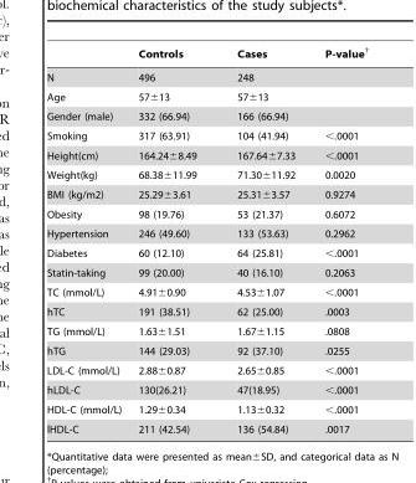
<table><thead><tr><td></td><td>Controls</td><td>Cases</td><td>P-value†</td></tr></thead><tbody><tr><td>N</td><td>496</td><td>248</td><td></td></tr><tr><td>Age</td><td>57±13</td><td>57±13</td><td></td></tr><tr><td>Gender (male)</td><td>332 (66.94)</td><td>166 (66.94)</td><td></td></tr><tr><td>Smoking</td><td>317 (63.91)</td><td>104 (41.94)</td><td>&lt;.0001</td></tr><tr><td>Height(cm)</td><td>164.24±8.49</td><td>167.64±7.33</td><td>&lt;.0001</td></tr><tr><td>Weight(kg)</td><td>68.38±11.99</td><td>71.30±11.92</td><td>0.0020</td></tr><tr><td>BMI (kg/m2)</td><td>25.29±3.61</td><td>25.31±3.57</td><td>0.9274</td></tr><tr><td>Obesity</td><td>98 (19.76)</td><td>53 (21.37)</td><td>0.6072</td></tr><tr><td>Hypertension</td><td>246 (49.60)</td><td>133 (53.63)</td><td>0.2962</td></tr><tr><td>Diabetes</td><td>60 (12.10)</td><td>64 (25.81)</td><td>&lt;.0001</td></tr><tr><td>Statin-taking</td><td>99 (20.00)</td><td>40 (16.10)</td><td>0.2063</td></tr><tr><td>TC (mmol/L)</td><td>4.91±0.90</td><td>4.53±1.07</td><td>&lt;.0001</td></tr><tr><td>hTC</td><td>191 (38.51)</td><td>62 (25.00)</td><td>.0003</td></tr><tr><td>TG (mmol/L)</td><td>1.63±1.51</td><td>1.67±1.15</td><td>.0808</td></tr><tr><td>hTG</td><td>144 (29.03)</td><td>92 (37.10)</td><td>.0255</td></tr><tr><td>LDL-C (mmol/L)</td><td>2.88±0.87</td><td>2.65±0.85</td><td>&lt;.0001</td></tr><tr><td>hLDL-C</td><td>130(26.21)</td><td>47(18.95)</td><td>&lt;.0001</td></tr><tr><td>HDL-C (mmol/L)</td><td>1.29±0.34</td><td>1.13±0.32</td><td>&lt;.0001</td></tr><tr><td>lHDL-C</td><td>211 (42.54)</td><td>136 (54.84)</td><td>.0017</td></tr></tbody></table>